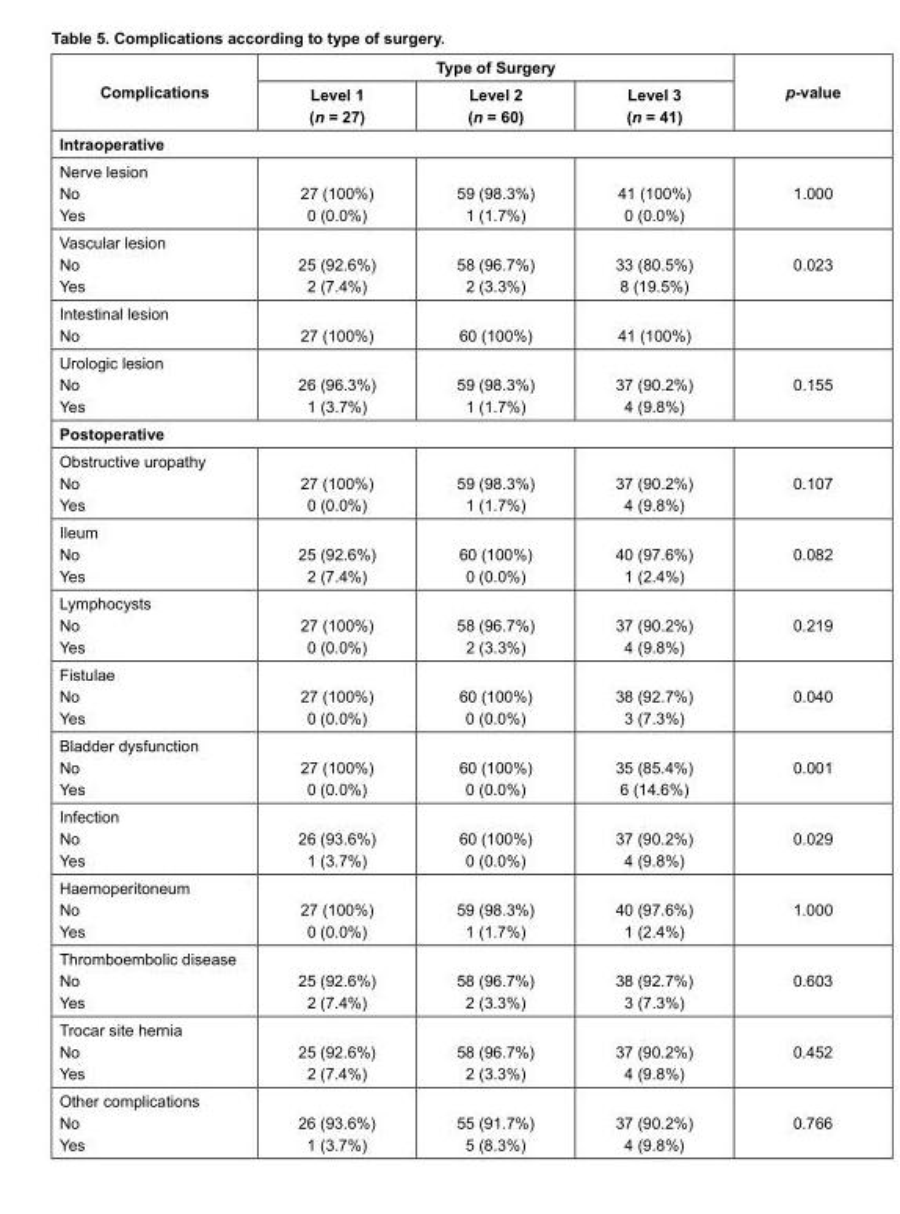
<table><thead><tr><td rowspan="2">Complications</td><td colspan="3">Type of Surgery</td><td rowspan="2">p-value</td></tr><tr><td>Level 1 (n = 27)</td><td>Level 2 (n = 60)</td><td>Level 3 (n = 41)</td></tr></thead><tbody><tr><td colspan="5">Intraoperative</td></tr><tr><td>Nerve lesion No Yes</td><td>27 (100%) 0 (0.0%)</td><td>59 (98.3%) 1 (1.7%)</td><td>41 (100%) 0 (0.0%)</td><td>1.000</td></tr><tr><td>Vascular lesion No Yes</td><td>25 (92.6%) 2 (7.4%)</td><td>58 (96.7%) 2 (3.3%)</td><td>33 (80.5%) 8 (19.5%)</td><td>0.023</td></tr><tr><td>Intestinal lesion No</td><td>27 (100%)</td><td>60 (100%)</td><td>41 (100%)</td><td></td></tr><tr><td>Urologic lesion No Yes</td><td>26 (96.3%) 1 (3.7%)</td><td>59 (98.3%) 1 (1.7%)</td><td>37 (90.2%) 4 (9.8%)</td><td>0.155</td></tr><tr><td colspan="5">Postoperative</td></tr><tr><td>Obstructive uropathy No Yes</td><td>27 (100%) 0 (0.0%)</td><td>59 (98.3%) 1 (1.7%)</td><td>37 (90.2%) 4 (9.8%)</td><td>0.107</td></tr><tr><td>Ileum No Yes</td><td>25 (92.6%) 2 (7.4%)</td><td>60 (100%) 0 (0.0%)</td><td>40 (97.6%) 1 (2.4%)</td><td>0.082</td></tr><tr><td>Lymphocysts No Yes</td><td>27 (100%) 0 (0.0%)</td><td>58 (96.7%) 2 (3.3%)</td><td>37 (90.2%) 4 (9.8%)</td><td>0.219</td></tr><tr><td>Fistulae No Yes</td><td>27 (100%) 0 (0.0%)</td><td>60 (100%) 0 (0.0%)</td><td>38 (92.7%) 3 (7.3%)</td><td>0.040</td></tr><tr><td>Bladder dysfunction No Yes</td><td>27 (100%) 0 (0.0%)</td><td>60 (100%) 0 (0.0%)</td><td>35 (85.4%) 6 (14.6%)</td><td>0.001</td></tr><tr><td>Infection No Yes</td><td>26 (93.6%) 1 (3.7%)</td><td>60 (100%) 0 (0.0%)</td><td>37 (90.2%) 4 (9.8%)</td><td>0.029</td></tr><tr><td>Haemoperitoneum No Yes</td><td>27 (100%) 0 (0.0%)</td><td>59 (98.3%) 1 (1.7%)</td><td>40 (97.6%) 1 (2.4%)</td><td>1.000</td></tr><tr><td>Thromboembolic disease No Yes</td><td>25 (92.6%) 2 (7.4%)</td><td>58 (96.7%) 2 (3.3%)</td><td>38 (92.7%) 3 (7.3%)</td><td>0.603</td></tr><tr><td>Trocar site hernia No Yes</td><td>25 (92.6%) 2 (7.4%)</td><td>58 (96.7%) 2 (3.3%)</td><td>37 (90.2%) 4 (9.8%)</td><td>0.452</td></tr><tr><td>Other complications No Yes</td><td>26 (93.6%) 1 (3.7%)</td><td>55 (91.7%) 5 (8.3%)</td><td>37 (90.2%) 4 (9.8%)</td><td>0.766</td></tr></tbody></table>